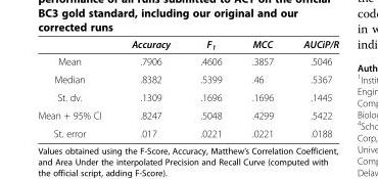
<table><thead><tr><td></td><td>Accuracy</td><td>F<sub>1</sub></td><td>MCC</td><td>AUCiP/R</td></tr></thead><tbody><tr><td>Mean</td><td>.7906</td><td>.4606</td><td>.3857</td><td>.5046</td></tr><tr><td>Median</td><td>.8382</td><td>.5399</td><td>.46</td><td>.5367</td></tr><tr><td>St. dv.</td><td>.1309</td><td>.1696</td><td>.1696</td><td>.1445</td></tr><tr><td>Mean + 95% CI</td><td>.8247</td><td>.5048</td><td>.4299</td><td>.5422</td></tr><tr><td>St. error</td><td>.017</td><td>.0221</td><td>.0221</td><td>.0188</td></tr></tbody></table>